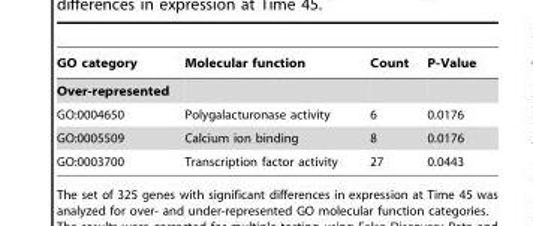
<table><thead><tr><td>GO category</td><td>Molecular function</td><td>Count</td><td>P-Value</td></tr></thead><tbody><tr><td colspan="4">Over-represented</td></tr><tr><td>GO:0004650</td><td>Polygalacturonase activity</td><td>6</td><td>0.0176</td></tr><tr><td>GO:0005509</td><td>Calcium ion binding</td><td>8</td><td>0.0176</td></tr><tr><td>GO:0003700</td><td>Transcription factor activity</td><td>27</td><td>0.0443</td></tr></tbody></table>